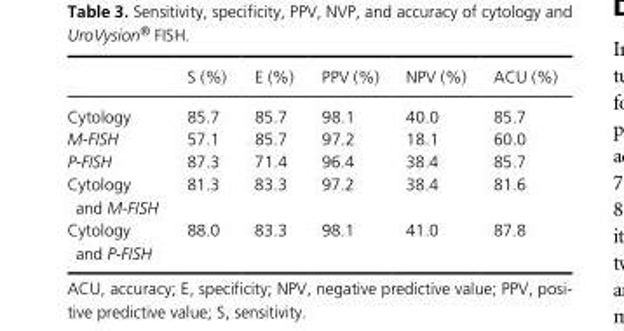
<table><thead><tr><td></td><td>S (%)</td><td>E (%)</td><td>PPV (%)</td><td>NPV (%)</td><td>ACU (%)</td></tr></thead><tbody><tr><td>Cytology</td><td>85.7</td><td>85.7</td><td>98.1</td><td>40.0</td><td>85.7</td></tr><tr><td>M-FISH</td><td>57.1</td><td>85.7</td><td>97.2</td><td>18.1</td><td>60.0</td></tr><tr><td>P-FISH</td><td>87.3</td><td>71.4</td><td>96.4</td><td>38.4</td><td>85.7</td></tr><tr><td>Cytology and M-FISH</td><td>81.3</td><td>83.3</td><td>97.2</td><td>38.4</td><td>81.6</td></tr><tr><td>Cytology and P-FISH</td><td>88.0</td><td>83.3</td><td>98.1</td><td>41.0</td><td>87.8</td></tr></tbody></table>